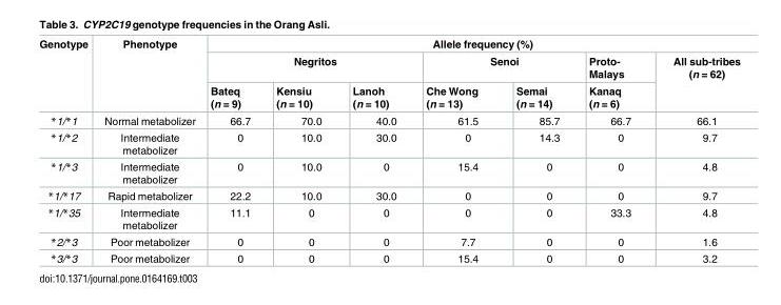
<table><thead><tr><td rowspan="3">Genotype</td><td rowspan="3">Phenotype</td><td colspan="7">Allele frequency (%)</td></tr><tr><td colspan="3">Negritos</td><td colspan="2">Senoi</td><td rowspan="2">Proto- Malays Kanaq (n = 6)</td><td rowspan="2">All sub-tribes (n = 62)</td></tr><tr><td>Bateq (n = 9)</td><td>Kensiu (n = 10)</td><td>Lanoh (n = 10)</td><td>Che Wong (n = 13)</td><td>Semai (n = 14)</td></tr></thead><tbody><tr><td>*1/*1</td><td>Normal metabolizer</td><td>66.7</td><td>70.0</td><td>40.0</td><td>61.5</td><td>85.7</td><td>66.7</td><td>66.1</td></tr><tr><td>*1/*2</td><td>Intermediate metabolizer</td><td>0</td><td>10.0</td><td>30.0</td><td>0</td><td>14.3</td><td>0</td><td>9.7</td></tr><tr><td>*1/*3</td><td>Intermediate metabolizer</td><td>0</td><td>10.0</td><td>0</td><td>15.4</td><td>0</td><td>0</td><td>4.8</td></tr><tr><td>*1/*17</td><td>Rapid metabolizer</td><td>22.2</td><td>10.0</td><td>30.0</td><td>0</td><td>0</td><td>0</td><td>9.7</td></tr><tr><td>*1/*35</td><td>Intermediate metabolizer</td><td>11.1</td><td>0</td><td>0</td><td>0</td><td>0</td><td>33.3</td><td>4.8</td></tr><tr><td>*2/*3</td><td>Poor metabolizer</td><td>0</td><td>0</td><td>0</td><td>7.7</td><td>0</td><td>0</td><td>1.6</td></tr><tr><td>*3/*3</td><td>Poor metabolizer</td><td>0</td><td>0</td><td>0</td><td>15.4</td><td>0</td><td>0</td><td>3.2</td></tr></tbody></table>